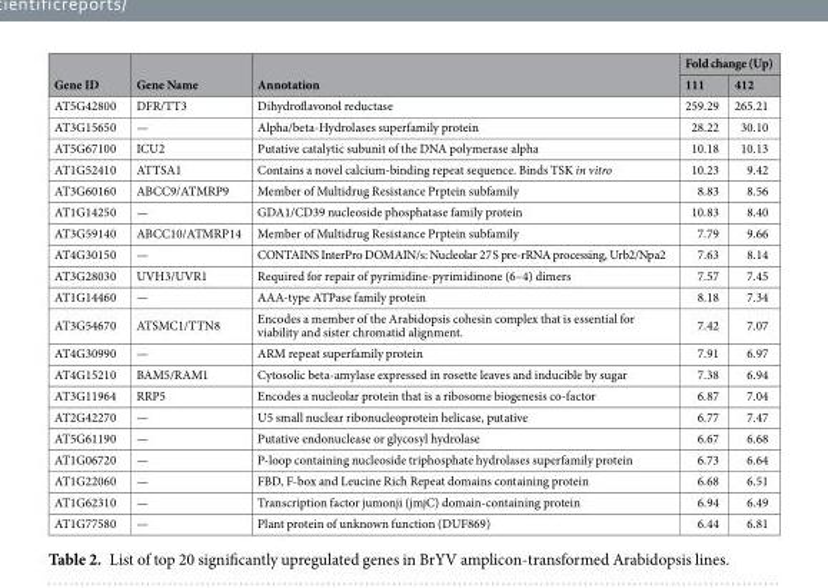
<table><thead><tr><td rowspan="2">Gene ID</td><td rowspan="2">Gene Name</td><td rowspan="2">Annotation</td><td colspan="2">Fold change (Up)</td></tr><tr><td>111</td><td>412</td></tr></thead><tbody><tr><td>AT5G42800</td><td>DFR/TT3</td><td>Dihydroflavonol reductase</td><td>259.29</td><td>265.21</td></tr><tr><td>AT3G15650</td><td>—</td><td>Alpha/beta-Hydrolases superfamily protein</td><td>28.22</td><td>30.10</td></tr><tr><td>AT5G67100</td><td>ICU2</td><td>Putative catalytic subunit of the DNA polymerase alpha</td><td>10.18</td><td>10.13</td></tr><tr><td>AT1G52410</td><td>ATTSA1</td><td>Contains a novel calcium-binding repeat sequence. Binds TSK in vitro</td><td>10.23</td><td>9.42</td></tr><tr><td>AT3G60160</td><td>ABCC9/ATMRP9</td><td>Member of Multidrug Resistance Prptein subfamily</td><td>8.83</td><td>8.56</td></tr><tr><td>AT1G14250</td><td>—</td><td>GDA1/CD39 nucleoside phosphatase family protein</td><td>10.83</td><td>8.40</td></tr><tr><td>AT3G59140</td><td>ABCC10/ATMRP14</td><td>Member of Multidrug Resistance Prptein subfamily</td><td>7.79</td><td>9.66</td></tr><tr><td>AT4G30150</td><td>—</td><td>CONTAINS InterPro DOMAIN/s: Nucleolar 27 S pre-rRNA processing, Urb2/Npa2</td><td>7.63</td><td>8.14</td></tr><tr><td>AT3G28030</td><td>UVH3/UVR1</td><td>Required for repair of pyrimidine-pyrimidinone (6–4) dimers</td><td>7.57</td><td>7.45</td></tr><tr><td>AT1G14460</td><td>—</td><td>AAA-type ATPase family protein</td><td>8.18</td><td>7.34</td></tr><tr><td>AT3G54670</td><td>ATSMC1/TTN8</td><td>Encodes a member of the Arabidopsis cohesin complex that is essential for viability and sister chromatid alignment.</td><td>7.42</td><td>7.07</td></tr><tr><td>AT4G30990</td><td>—</td><td>ARM repeat superfamily protein</td><td>7.91</td><td>6.97</td></tr><tr><td>AT4G15210</td><td>BAM5/RAM1</td><td>Cytosolic beta-amylase expressed in rosette leaves and inducible by sugar</td><td>7.38</td><td>6.94</td></tr><tr><td>AT3G11964</td><td>RRP5</td><td>Encodes a nucleolar protein that is a ribosome biogenesis co-factor</td><td>6.87</td><td>7.04</td></tr><tr><td>AT2G42270</td><td>—</td><td>U5 small nuclear ribonucleoprotein helicase, putative</td><td>6.77</td><td>7.47</td></tr><tr><td>AT5G61190</td><td>—</td><td>Putative endonuclease or glycosyl hydrolase</td><td>6.67</td><td>6.68</td></tr><tr><td>AT1G06720</td><td>—</td><td>P-loop containing nucleoside triphosphate hydrolases superfamily protein</td><td>6.73</td><td>6.64</td></tr><tr><td>AT1G22060</td><td>—</td><td>FBD, F-box and Leucine Rich Repeat domains containing protein</td><td>6.68</td><td>6.51</td></tr><tr><td>AT1G62310</td><td>—</td><td>Transcription factor jumonji (jmjC) domain-containing protein</td><td>6.94</td><td>6.49</td></tr><tr><td>AT1G77580</td><td>—</td><td>Plant protein of unknown function (DUF869)</td><td>6.44</td><td>6.81</td></tr></tbody></table>